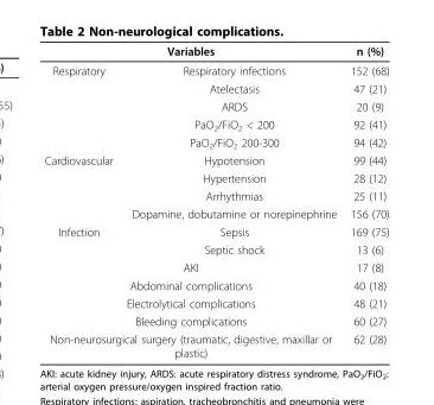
<table><thead><tr><td colspan="2">Variables</td><td rowspan="2">n (%) 152 (68)</td></tr><tr><td>Respiratory</td><td>Respiratory infections</td></tr></thead><tbody><tr><td></td><td>Atelectasis</td><td>47 (21)</td></tr><tr><td></td><td>ARDS</td><td>20 (9)</td></tr><tr><td></td><td>PaO<sub>2</sub>/FiO<sub>2</sub> &lt; 200</td><td>92 (41)</td></tr><tr><td></td><td>PaO<sub>2</sub>/FiO<sub>2</sub> 200-300</td><td>94 (42)</td></tr><tr><td rowspan="4">Cardiovascular</td><td>Hypotension</td><td>99 (44)</td></tr><tr><td>Hypertension</td><td>28 (12)</td></tr><tr><td>Arrhythmias</td><td>25 (11)</td></tr><tr><td>Dopamine, dobutamine or norepinephrine</td><td>156 (70)</td></tr><tr><td rowspan="2">Infection</td><td>Sepsis</td><td>169 (75)</td></tr><tr><td>Septic shock</td><td>13 (6)</td></tr><tr><td colspan="2">AKI</td><td>17 (8)</td></tr><tr><td colspan="2">Abdominal complications</td><td>40 (18)</td></tr><tr><td colspan="2">Electrolytical complications</td><td>48 (21)</td></tr><tr><td colspan="2">Bleeding complications</td><td>60 (27)</td></tr><tr><td colspan="2">Non-neurosurgical surgery (traumatic, digestive, maxillar or plastic)</td><td>62 (28)</td></tr></tbody></table>